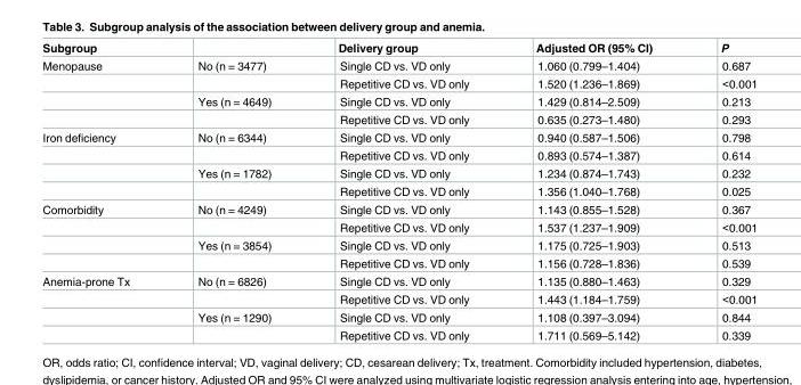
<table><thead><tr><td>Subgroup</td><td></td><td>Delivery group</td><td>Adjusted OR (95% CI)</td><td>P</td></tr></thead><tbody><tr><td rowspan="4">Menopause</td><td>No (n = 3477)</td><td>Single CD vs. VD only</td><td>1.060 (0.799–1.404)</td><td>0.687</td></tr><tr><td></td><td>Repetitive CD vs. VD only</td><td>1.520 (1.236–1.869)</td><td>&lt;0.001</td></tr><tr><td>Yes (n = 4649)</td><td>Single CD vs. VD only</td><td>1.429 (0.814–2.509)</td><td>0.213</td></tr><tr><td></td><td>Repetitive CD vs. VD only</td><td>0.635 (0.273–1.480)</td><td>0.293</td></tr><tr><td rowspan="4">Iron deficiency</td><td>No (n = 6344)</td><td>Single CD vs. VD only</td><td>0.940 (0.587–1.506)</td><td>0.798</td></tr><tr><td></td><td>Repetitive CD vs. VD only</td><td>0.893 (0.574–1.387)</td><td>0.614</td></tr><tr><td>Yes (n = 1782)</td><td>Single CD vs. VD only</td><td>1.234 (0.874–1.743)</td><td>0.232</td></tr><tr><td></td><td>Repetitive CD vs. VD only</td><td>1.356 (1.040–1.768)</td><td>0.025</td></tr><tr><td rowspan="4">Comorbidity</td><td>No (n = 4249)</td><td>Single CD vs. VD only</td><td>1.143 (0.855–1.528)</td><td>0.367</td></tr><tr><td></td><td>Repetitive CD vs. VD only</td><td>1.537 (1.237–1.909)</td><td>&lt;0.001</td></tr><tr><td>Yes (n = 3854)</td><td>Single CD vs. VD only</td><td>1.175 (0.725–1.903)</td><td>0.513</td></tr><tr><td></td><td>Repetitive CD vs. VD only</td><td>1.156 (0.728–1.836)</td><td>0.539</td></tr><tr><td rowspan="4">Anemia-prone Tx</td><td>No (n = 6826)</td><td>Single CD vs. VD only</td><td>1.135 (0.880–1.463)</td><td>0.329</td></tr><tr><td></td><td>Repetitive CD vs. VD only</td><td>1.443 (1.184–1.759)</td><td>&lt;0.001</td></tr><tr><td>Yes (n = 1290)</td><td>Single CD vs. VD only</td><td>1.108 (0.397–3.094)</td><td>0.844</td></tr><tr><td></td><td>Repetitive CD vs. VD only</td><td>1.711 (0.569–5.142)</td><td>0.339</td></tr></tbody></table>